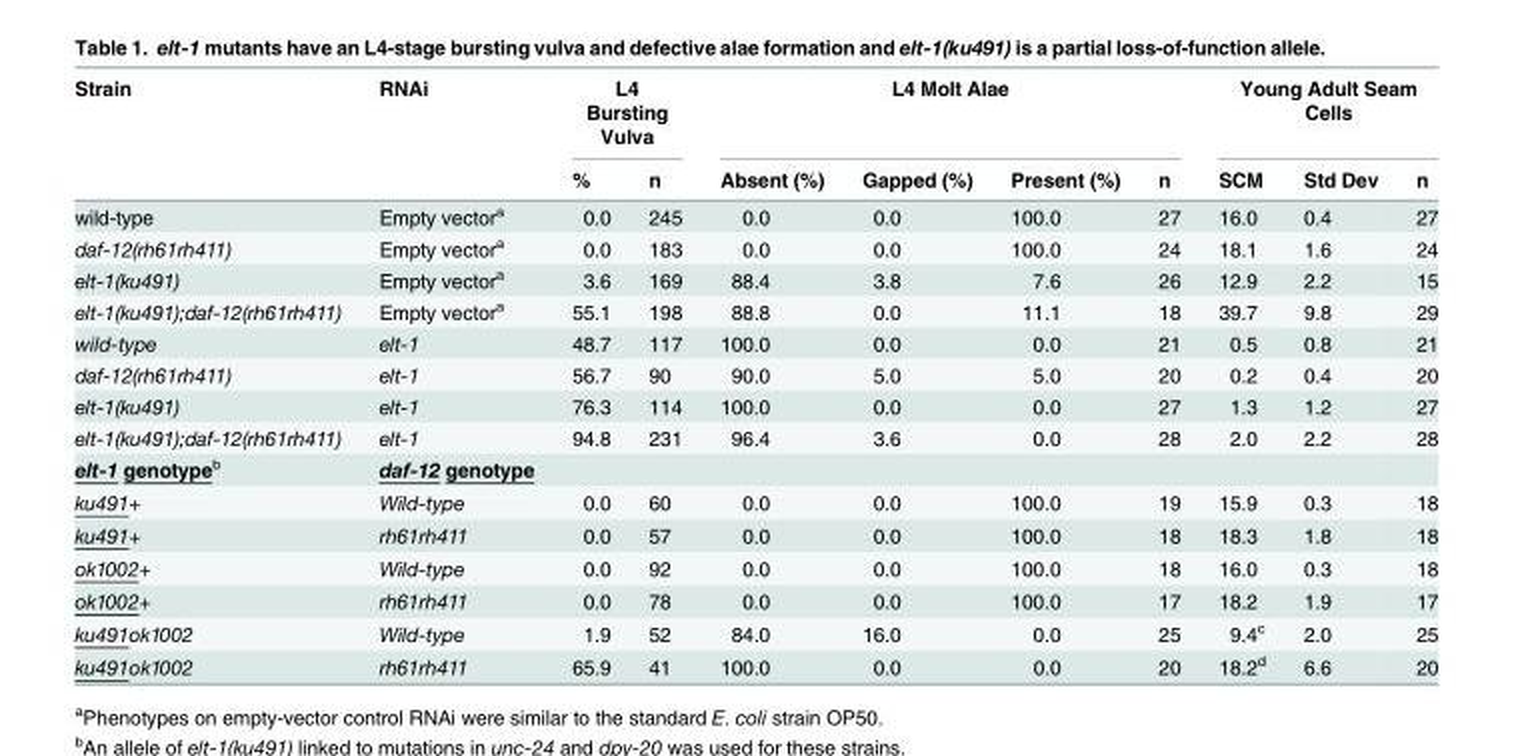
<table><thead><tr><td rowspan="2">Strain</td><td rowspan="2">RNAi</td><td colspan="2">L4 Bursting Vulva</td><td colspan="4">L4 Molt Alae</td><td colspan="3">Young Adult Seam Cells</td></tr><tr><td>%</td><td>n</td><td>Absent (%)</td><td>Gapped (%)</td><td>Present (%)</td><td>n</td><td>SCM</td><td>Std Dev</td><td>n</td></tr></thead><tbody><tr><td>wild-type</td><td>Empty vector<sup>a</sup></td><td>0.0</td><td>245</td><td>0.0</td><td>0.0</td><td>100.0</td><td>27</td><td>16.0</td><td>0.4</td><td>27</td></tr><tr><td>daf-12(rh61rh411)</td><td>Empty vector<sup>a</sup></td><td>0.0</td><td>183</td><td>0.0</td><td>0.0</td><td>100.0</td><td>24</td><td>18.1</td><td>1.6</td><td>24</td></tr><tr><td>elt-1(ku491)</td><td>Empty vector<sup>a</sup></td><td>3.6</td><td>169</td><td>88.4</td><td>3.8</td><td>7.6</td><td>26</td><td>12.9</td><td>2.2</td><td>15</td></tr><tr><td>elt-1(ku491);daf-12(rh61rh411)</td><td>Empty vector<sup>a</sup></td><td>55.1</td><td>198</td><td>88.8</td><td>0.0</td><td>11.1</td><td>18</td><td>39.7</td><td>9.8</td><td>29</td></tr><tr><td>wild-type</td><td>elt-1</td><td>48.7</td><td>117</td><td>100.0</td><td>0.0</td><td>0.0</td><td>21</td><td>0.5</td><td>0.8</td><td>21</td></tr><tr><td>daf-12(rh61rh411)</td><td>elt-1</td><td>56.7</td><td>90</td><td>90.0</td><td>5.0</td><td>5.0</td><td>20</td><td>0.2</td><td>0.4</td><td>20</td></tr><tr><td>elt-1(ku491)</td><td>elt-1</td><td>76.3</td><td>114</td><td>100.0</td><td>0.0</td><td>0.0</td><td>27</td><td>1.3</td><td>1.2</td><td>27</td></tr><tr><td>elt-1(ku491);daf-12(rh61rh411)</td><td>elt-1</td><td>94.8</td><td>231</td><td>96.4</td><td>3.6</td><td>0.0</td><td>28</td><td>2.0</td><td>2.2</td><td>28</td></tr><tr><td>elt-1 genotype<sup>b</sup></td><td>daf-12 genotype</td><td></td><td></td><td></td><td></td><td></td><td></td><td></td><td></td><td></td></tr><tr><td>ku491+</td><td>Wild-type</td><td>0.0</td><td>60</td><td>0.0</td><td>0.0</td><td>100.0</td><td>19</td><td>15.9</td><td>0.3</td><td>18</td></tr><tr><td>ku491+</td><td>rh61rh411</td><td>0.0</td><td>57</td><td>0.0</td><td>0.0</td><td>100.0</td><td>18</td><td>18.3</td><td>1.8</td><td>18</td></tr><tr><td>ok1002+</td><td>Wild-type</td><td>0.0</td><td>92</td><td>0.0</td><td>0.0</td><td>100.0</td><td>18</td><td>16.0</td><td>0.3</td><td>18</td></tr><tr><td>ok1002+</td><td>rh61rh411</td><td>0.0</td><td>78</td><td>0.0</td><td>0.0</td><td>100.0</td><td>17</td><td>18.2</td><td>1.9</td><td>17</td></tr><tr><td>ku491ok1002</td><td>Wild-type</td><td>1.9</td><td>52</td><td>84.0</td><td>16.0</td><td>0.0</td><td>25</td><td>9.4<sup>c</sup></td><td>2.0</td><td>25</td></tr><tr><td>ku491ok1002</td><td>rh61rh411</td><td>65.9</td><td>41</td><td>100.0</td><td>0.0</td><td>0.0</td><td>20</td><td>18.2<sup>d</sup></td><td>6.6</td><td>20</td></tr></tbody></table>